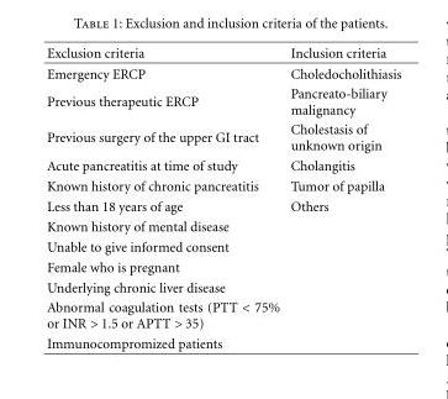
<table><thead><tr><td>Exclusion criteria</td><td>Inclusion criteria</td></tr></thead><tbody><tr><td>Emergency ERCP</td><td>Choledocholithiasis</td></tr><tr><td>Previous therapeutic ERCP</td><td>Pancreato-biliary malignancy</td></tr><tr><td>Previous surgery of the upper GI tract</td><td>Cholestasis of unknown origin</td></tr><tr><td>Acute pancreatitis at time of study</td><td>Cholangitis</td></tr><tr><td>Known history of chronic pancreatitis</td><td>Tumor of papilla</td></tr><tr><td>Less than 18 years of age</td><td>Others</td></tr><tr><td colspan="2">Known history of mental disease</td></tr><tr><td colspan="2">Unable to give informed consent</td></tr><tr><td colspan="2">Female who is pregnant</td></tr><tr><td colspan="2">Underlying chronic liver disease</td></tr><tr><td colspan="2">Abnormal coagulation tests (PTT &lt; 75% or INR &gt; 1.5 or APTT &gt; 35)</td></tr><tr><td>Immunocompromized patients</td><td></td></tr></tbody></table>